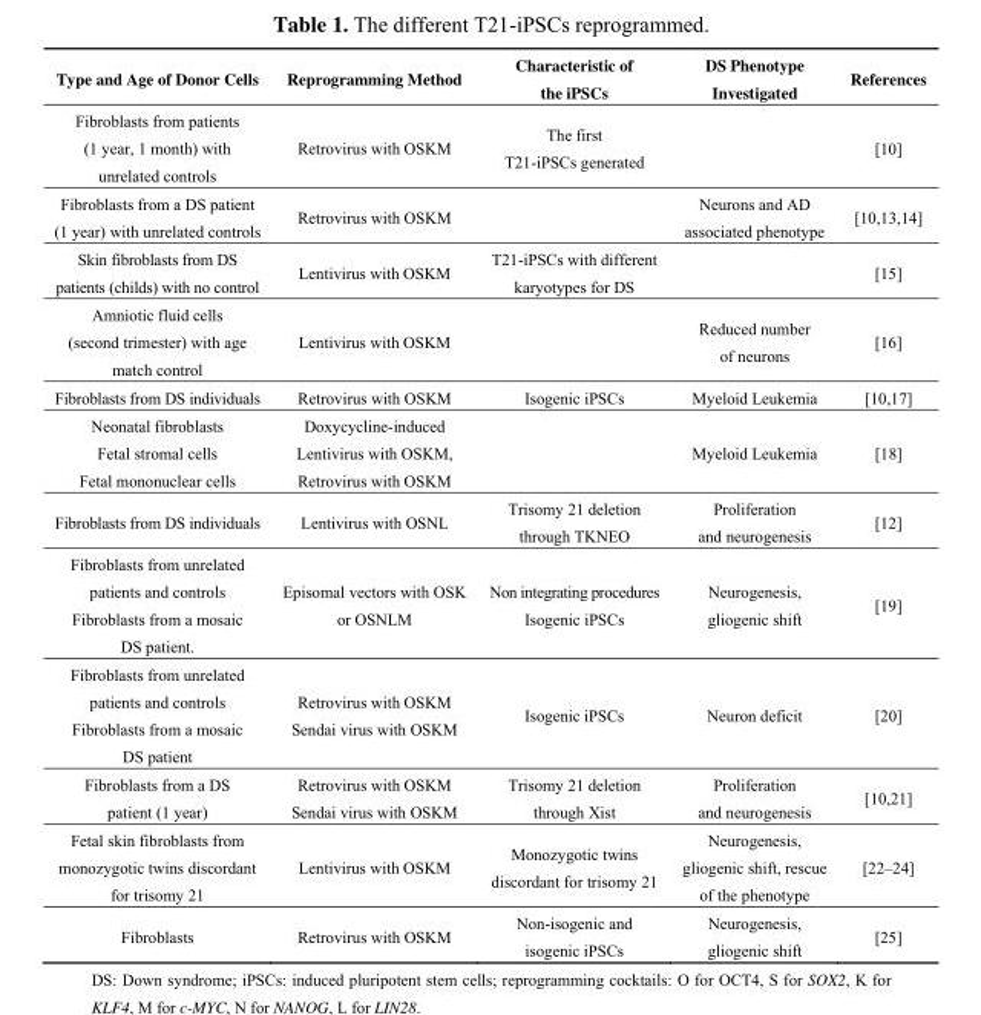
<table><thead><tr><td>Type and Age of Donor Cells</td><td>Reprogramming Method</td><td>Characteristic of the iPSCs</td><td>DS Phenotype Investigated</td><td>References</td></tr></thead><tbody><tr><td>Fibroblasts from patients (1 year, 1 month) with unrelated controls</td><td>Retrovirus with OSKM</td><td>The first T21-iPSCs generated</td><td></td><td>[10]</td></tr><tr><td>Fibroblasts from a DS patient (1 year) with unrelated controls</td><td>Retrovirus with OSKM</td><td></td><td>Neurons and AD associated phenotype</td><td>[10,13,14]</td></tr><tr><td>Skin fibroblasts from DS patients (childs) with no control</td><td>Lentivirus with OSKM</td><td>T21-iPSCs with different karyotypes for DS</td><td></td><td>[15]</td></tr><tr><td>Amniotic fluid cells (second trimester) with age match control</td><td>Lentivirus with OSKM</td><td></td><td>Reduced number of neurons</td><td>[16]</td></tr><tr><td>Fibroblasts from DS individuals</td><td>Retrovirus with OSKM</td><td>Isogenic iPSCs</td><td>Myeloid Leukemia</td><td>[10,17]</td></tr><tr><td>Neonatal fibroblasts Fetal stromal cells Fetal mononuclear cells</td><td>Doxycycline-induced Lentivirus with OSKM, Retrovirus with OSKM</td><td></td><td>Myeloid Leukemia</td><td>[18]</td></tr><tr><td>Fibroblasts from DS individuals</td><td>Lentivirus with OSNL</td><td>Trisomy 21 deletion through TKNEO</td><td>Proliferation and neurogenesis</td><td>[12]</td></tr><tr><td>Fibroblasts from unrelated patients and controls Fibroblasts from a mosaic DS patient.</td><td>Episomal vectors with OSK or OSNLM</td><td>Non integrating procedures Isogenic iPSCs</td><td>Neurogenesis, gliogenic shift</td><td>[19]</td></tr><tr><td>Fibroblasts from unrelated patients and controls Fibroblasts from a mosaic DS patient</td><td>Retrovirus with OSKM Sendai virus with OSKM</td><td>Isogenic iPSCs</td><td>Neuron deficit</td><td>[20]</td></tr><tr><td>Fibroblasts from a DS patient (1 year)</td><td>Retrovirus with OSKM Sendai virus with OSKM</td><td>Trisomy 21 deletion through Xist</td><td>Proliferation and neurogenesis</td><td>[10,21]</td></tr><tr><td>Fetal skin fibroblasts from monozygotic twins discordant for trisomy 21</td><td>Lentivirus with OSKM</td><td>Monozygotic twins discordant for trisomy 21</td><td>Neurogenesis, gliogenic shift, rescue of the phenotype</td><td>[22–24]</td></tr><tr><td>Fibroblasts</td><td>Retrovirus with OSKM</td><td>Non-isogenic and isogenic iPSCs</td><td>Neurogenesis, gliogenic shift</td><td>[25]</td></tr></tbody></table>